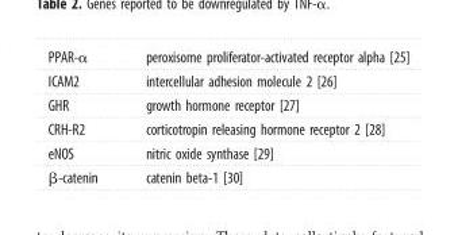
<table><tbody><tr><td>PPAR-α</td><td>peroxisome proliferator-activated receptor alpha [25]</td></tr><tr><td>ICAM2</td><td>intercellular adhesion molecule 2 [26]</td></tr><tr><td>GHR</td><td>growth hormone receptor [27]</td></tr><tr><td>CRH-R2</td><td>corticotropin releasing hormone receptor 2 [28]</td></tr><tr><td>eNOS</td><td>nitric oxide synthase [29]</td></tr><tr><td>β-catenin</td><td>catenin beta-1 [30]</td></tr></tbody></table>